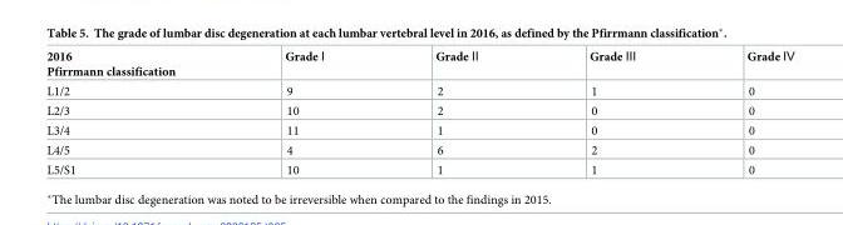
<table><thead><tr><td>2016 Pfirrmann classification</td><td>Grade Ⅰ</td><td>Grade Ⅱ</td><td>Grade Ⅲ</td><td>Grade Ⅳ</td></tr></thead><tbody><tr><td>L1/2</td><td>9</td><td>2</td><td>1</td><td>0</td></tr><tr><td>L2/3</td><td>10</td><td>2</td><td>0</td><td>0</td></tr><tr><td>L3/4</td><td>11</td><td>1</td><td>0</td><td>0</td></tr><tr><td>L4/5</td><td>4</td><td>6</td><td>2</td><td>0</td></tr><tr><td>L5/S1</td><td>10</td><td>1</td><td>1</td><td>0</td></tr></tbody></table>